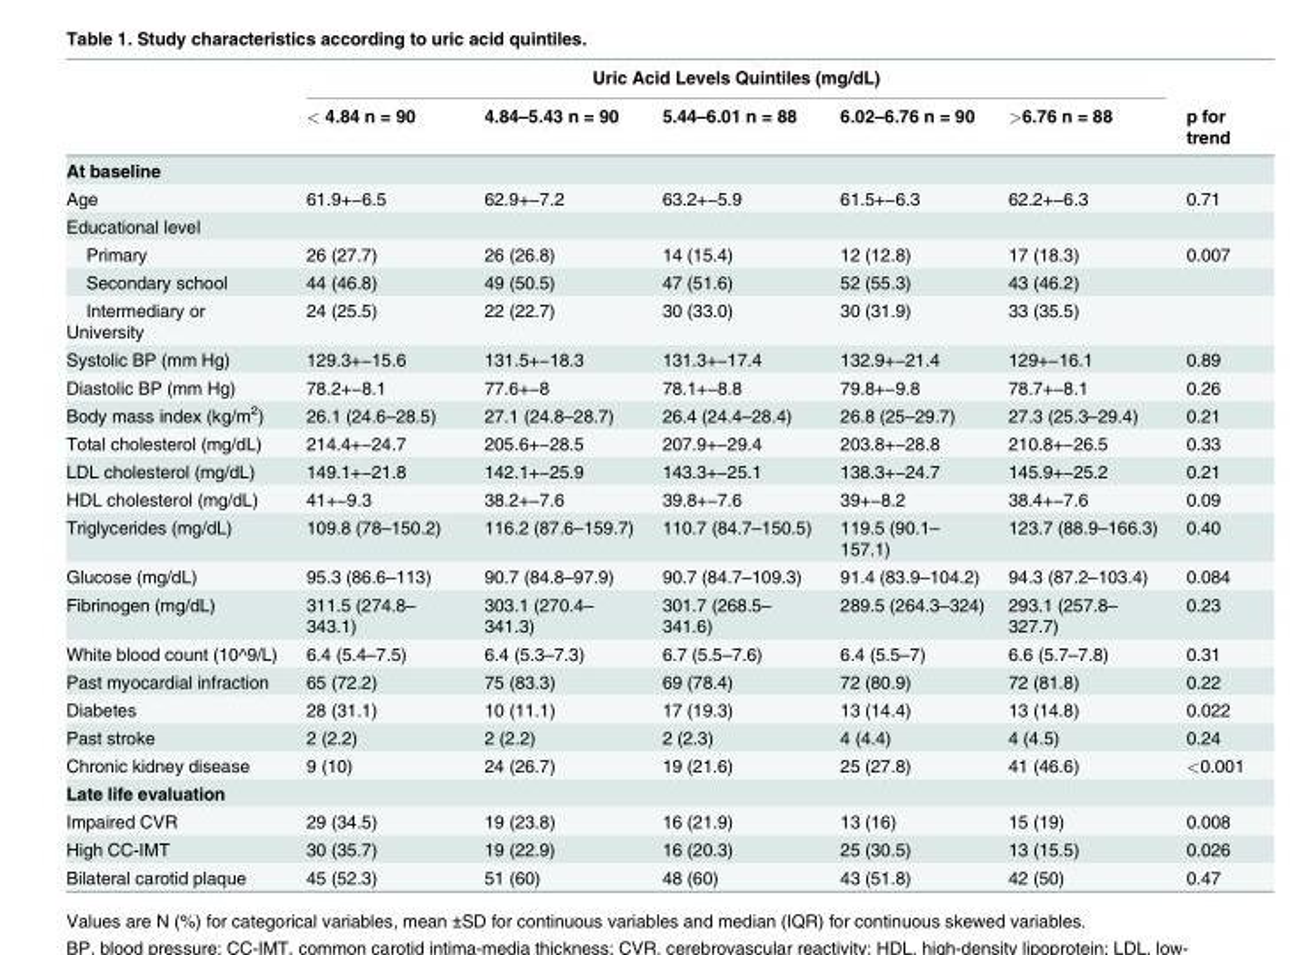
<table><thead><tr><td rowspan="2"></td><td colspan="5">Uric Acid Levels Quintiles (mg/dL)</td><td rowspan="2">p for trend</td></tr><tr><td>&lt; 4.84 n = 90</td><td>4.84–5.43 n = 90</td><td>5.44–6.01 n = 88</td><td>6.02–6.76 n = 90</td><td>&gt;6.76 n = 88</td></tr></thead><tbody><tr><td colspan="7">At baseline</td></tr><tr><td>Age</td><td>61.9+−6.5</td><td>62.9+−7.2</td><td>63.2+−5.9</td><td>61.5+−6.3</td><td>62.2+−6.3</td><td>0.71</td></tr><tr><td colspan="7">Educational level</td></tr><tr><td>Primary</td><td>26 (27.7)</td><td>26 (26.8)</td><td>14 (15.4)</td><td>12 (12.8)</td><td>17 (18.3)</td><td>0.007</td></tr><tr><td>Secondary school</td><td>44 (46.8)</td><td>49 (50.5)</td><td>47 (51.6)</td><td>52 (55.3)</td><td>43 (46.2)</td><td></td></tr><tr><td>Intermediary or University</td><td>24 (25.5)</td><td>22 (22.7)</td><td>30 (33.0)</td><td>30 (31.9)</td><td>33 (35.5)</td><td></td></tr><tr><td>Systolic BP (mm Hg)</td><td>129.3+−15.6</td><td>131.5+−18.3</td><td>131.3+−17.4</td><td>132.9+−21.4</td><td>129+−16.1</td><td>0.89</td></tr><tr><td>Diastolic BP (mm Hg)</td><td>78.2+−8.1</td><td>77.6+−8</td><td>78.1+−8.8</td><td>79.8+−9.8</td><td>78.7+−8.1</td><td>0.26</td></tr><tr><td>Body mass index (kg/m<sup>2</sup>)</td><td>26.1 (24.6–28.5)</td><td>27.1 (24.8–28.7)</td><td>26.4 (24.4–28.4)</td><td>26.8 (25–29.7)</td><td>27.3 (25.3–29.4)</td><td>0.21</td></tr><tr><td>Total cholesterol (mg/dL)</td><td>214.4+−24.7</td><td>205.6+−28.5</td><td>207.9+−29.4</td><td>203.8+−28.8</td><td>210.8+−26.5</td><td>0.33</td></tr><tr><td>LDL cholesterol (mg/dL)</td><td>149.1+−21.8</td><td>142.1+−25.9</td><td>143.3+−25.1</td><td>138.3+−24.7</td><td>145.9+−25.2</td><td>0.21</td></tr><tr><td>HDL cholesterol (mg/dL)</td><td>41+−9.3</td><td>38.2+−7.6</td><td>39.8+−7.6</td><td>39+−8.2</td><td>38.4+−7.6</td><td>0.09</td></tr><tr><td>Triglycerides (mg/dL)</td><td>109.8 (78–150.2)</td><td>116.2 (87.6–159.7)</td><td>110.7 (84.7–150.5)</td><td>119.5 (90.1– 157.1)</td><td>123.7 (88.9–166.3)</td><td>0.40</td></tr><tr><td>Glucose (mg/dL)</td><td>95.3 (86.6–113)</td><td>90.7 (84.8–97.9)</td><td>90.7 (84.7–109.3)</td><td>91.4 (83.9–104.2)</td><td>94.3 (87.2–103.4)</td><td>0.084</td></tr><tr><td>Fibrinogen (mg/dL)</td><td>311.5 (274.8– 343.1)</td><td>303.1 (270.4– 341.3)</td><td>301.7 (268.5– 341.6)</td><td>289.5 (264.3–324)</td><td>293.1 (257.8– 327.7)</td><td>0.23</td></tr><tr><td>White blood count (10^9/L)</td><td>6.4 (5.4–7.5)</td><td>6.4 (5.3–7.3)</td><td>6.7 (5.5–7.6)</td><td>6.4 (5.5–7)</td><td>6.6 (5.7–7.8)</td><td>0.31</td></tr><tr><td>Past myocardial infraction</td><td>65 (72.2)</td><td>75 (83.3)</td><td>69 (78.4)</td><td>72 (80.9)</td><td>72 (81.8)</td><td>0.22</td></tr><tr><td>Diabetes</td><td>28 (31.1)</td><td>10 (11.1)</td><td>17 (19.3)</td><td>13 (14.4)</td><td>13 (14.8)</td><td>0.022</td></tr><tr><td>Past stroke</td><td>2 (2.2)</td><td>2 (2.2)</td><td>2 (2.3)</td><td>4 (4.4)</td><td>4 (4.5)</td><td>0.24</td></tr><tr><td>Chronic kidney disease</td><td>9 (10)</td><td>24 (26.7)</td><td>19 (21.6)</td><td>25 (27.8)</td><td>41 (46.6)</td><td>&lt;0.001</td></tr><tr><td colspan="7">Late life evaluation</td></tr><tr><td>Impaired CVR</td><td>29 (34.5)</td><td>19 (23.8)</td><td>16 (21.9)</td><td>13 (16)</td><td>15 (19)</td><td>0.008</td></tr><tr><td>High CC-IMT</td><td>30 (35.7)</td><td>19 (22.9)</td><td>16 (20.3)</td><td>25 (30.5)</td><td>13 (15.5)</td><td>0.026</td></tr><tr><td>Bilateral carotid plaque</td><td>45 (52.3)</td><td>51 (60)</td><td>48 (60)</td><td>43 (51.8)</td><td>42 (50)</td><td>0.47</td></tr></tbody></table>